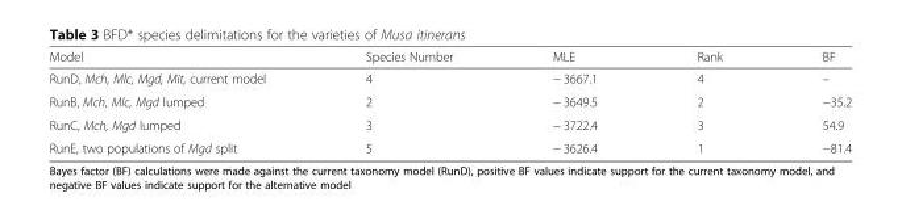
<table><thead><tr><td>Model</td><td>Species Number</td><td>MLE</td><td>Rank</td><td>BF</td></tr></thead><tbody><tr><td>RunD, Mch, Mlc, Mgd, Mit, current model</td><td>4</td><td>− 3667.1</td><td>4</td><td>–</td></tr><tr><td>RunB, Mch, Mlc, Mgd lumped</td><td>2</td><td>− 3649.5</td><td>2</td><td>−35.2</td></tr><tr><td>RunC, Mch, Mgd lumped</td><td>3</td><td>− 3722.4</td><td>3</td><td>54.9</td></tr><tr><td>RunE, two populations of Mgd split</td><td>5</td><td>− 3626.4</td><td>1</td><td>−81.4</td></tr></tbody></table>